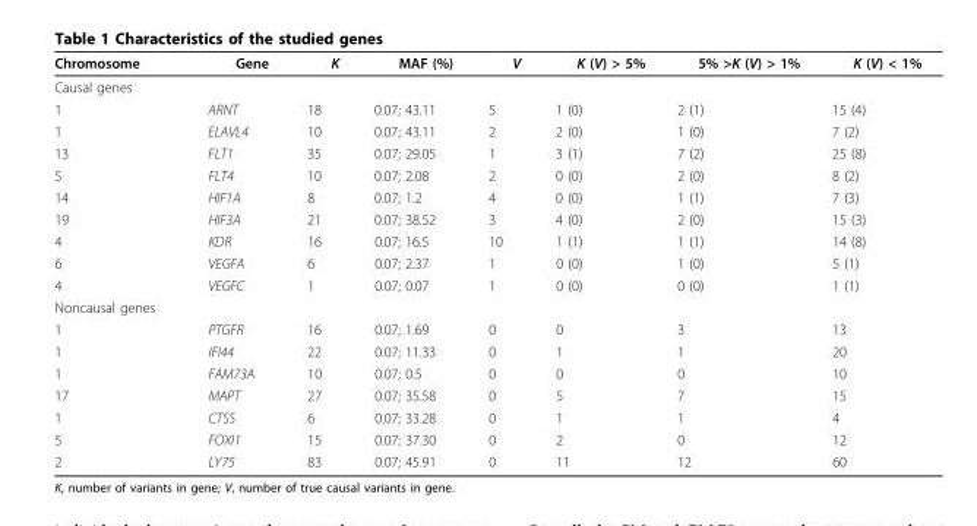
<table><thead><tr><td>Chromosome</td><td>Gene</td><td>K</td><td>MAF (%)</td><td>V</td><td>K (V) &gt; 5%</td><td>5% &gt;K (V) &gt; 1%</td><td>K (V) &lt; 1%</td></tr></thead><tbody><tr><td colspan="8">Causal genes</td></tr><tr><td>1</td><td>ARNT</td><td>18</td><td>0.07; 43.11</td><td>5</td><td>1 (0)</td><td>2 (1)</td><td>15 (4)</td></tr><tr><td>1</td><td>ELAVL4</td><td>10</td><td>0.07; 43.11</td><td>2</td><td>2 (0)</td><td>1 (0)</td><td>7 (2)</td></tr><tr><td>13</td><td>FLT1</td><td>35</td><td>0.07; 29.05</td><td>1</td><td>3 (1)</td><td>7 (2)</td><td>25 (8)</td></tr><tr><td>5</td><td>FLT4</td><td>10</td><td>0.07; 2.08</td><td>2</td><td>0 (0)</td><td>2 (0)</td><td>8 (2)</td></tr><tr><td>14</td><td>HIF1A</td><td>8</td><td>0.07; 1.2</td><td>4</td><td>0 (0)</td><td>1 (1)</td><td>7 (3)</td></tr><tr><td>19</td><td>HIF3A</td><td>21</td><td>0.07; 38.52</td><td>3</td><td>4 (0)</td><td>2 (0)</td><td>15 (3)</td></tr><tr><td>4</td><td>KDR</td><td>16</td><td>0.07; 16.5</td><td>10</td><td>1 (1)</td><td>1 (1)</td><td>14 (8)</td></tr><tr><td>6</td><td>VEGFA</td><td>6</td><td>0.07; 2.37</td><td>1</td><td>0 (0)</td><td>1 (0)</td><td>5 (1)</td></tr><tr><td>4</td><td>VEGFC</td><td>1</td><td>0.07; 0.07</td><td>1</td><td>0 (0)</td><td>0 (0)</td><td>1 (1)</td></tr><tr><td colspan="8">Noncausal genes</td></tr><tr><td>1</td><td>PTGFR</td><td>16</td><td>0.07; 1.69</td><td>0</td><td>0</td><td>3</td><td>13</td></tr><tr><td>1</td><td>IFI44</td><td>22</td><td>0.07; 11.33</td><td>0</td><td>1</td><td>1</td><td>20</td></tr><tr><td>1</td><td>FAM73A</td><td>10</td><td>0.07; 0.5</td><td>0</td><td>0</td><td>0</td><td>10</td></tr><tr><td>17</td><td>MAPT</td><td>27</td><td>0.07; 35.58</td><td>0</td><td>5</td><td>7</td><td>15</td></tr><tr><td>1</td><td>CTSS</td><td>6</td><td>0.07; 33.28</td><td>0</td><td>1</td><td>1</td><td>4</td></tr><tr><td>5</td><td>FOXI1</td><td>15</td><td>0.07; 37.30</td><td>0</td><td>2</td><td>0</td><td>12</td></tr><tr><td>2</td><td>LY75</td><td>83</td><td>0.07; 45.91</td><td>0</td><td>11</td><td>12</td><td>60</td></tr></tbody></table>